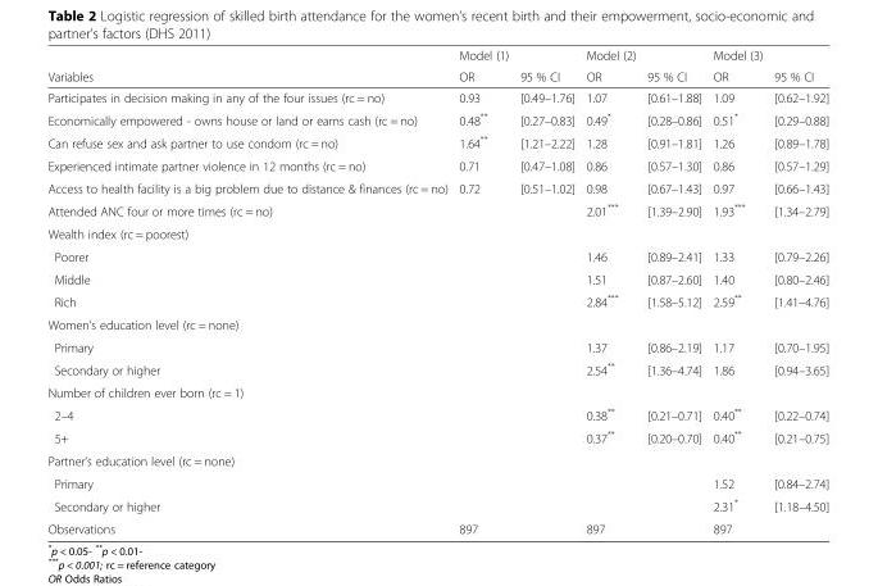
<table><thead><tr><td rowspan="2">Variables</td><td rowspan="2">Model (1) OR</td><td rowspan="2">95 % CI</td><td rowspan="2">Model (2) OR</td><td rowspan="2">95 % CI</td><td rowspan="2">Model (3) OR</td><td rowspan="2">95 % CI</td></tr><tr></tr></thead><tbody><tr><td>Participates in decision making in any of the four issues (rc = no)</td><td>0.93</td><td>[0.49–1.76]</td><td>1.07</td><td>[0.61–1.88]</td><td>1.09</td><td>[0.62–1.92]</td></tr><tr><td>Economically empowered - owns house or land or earns cash (rc = no)</td><td>0.48**</td><td>[0.27–0.83]</td><td>0.49*</td><td>[0.28–0.86]</td><td>0.51*</td><td>[0.29–0.88]</td></tr><tr><td>Can refuse sex and ask partner to use condom (rc = no)</td><td>1.64**</td><td>[1.21–2.22]</td><td>1.28</td><td>[0.91–1.81]</td><td>1.26</td><td>[0.89–1.78]</td></tr><tr><td>Experienced intimate partner violence in 12 months (rc = no)</td><td>0.71</td><td>[0.47–1.08]</td><td>0.86</td><td>[0.57–1.30]</td><td>0.86</td><td>[0.57–1.29]</td></tr><tr><td>Access to health facility is a big problem due to distance &amp; finances (rc = no)</td><td>0.72</td><td>[0.51–1.02]</td><td>0.98</td><td>[0.67–1.43]</td><td>0.97</td><td>[0.66–1.43]</td></tr><tr><td>Attended ANC four or more times (rc = no)</td><td></td><td></td><td>2.01***</td><td>[1.39–2.90]</td><td>1.93***</td><td>[1.34–2.79]</td></tr><tr><td colspan="7">Wealth index (rc = poorest)</td></tr><tr><td>Poorer</td><td></td><td></td><td>1.46</td><td>[0.89–2.41]</td><td>1.33</td><td>[0.79–2.26]</td></tr><tr><td>Middle</td><td></td><td></td><td>1.51</td><td>[0.87–2.60]</td><td>1.40</td><td>[0.80–2.46]</td></tr><tr><td>Rich</td><td></td><td></td><td>2.84***</td><td>[1.58–5.12]</td><td>2.59**</td><td>[1.41–4.76]</td></tr><tr><td colspan="7">Women’s education level (rc = none)</td></tr><tr><td>Primary</td><td></td><td></td><td>1.37</td><td>[0.86–2.19]</td><td>1.17</td><td>[0.70–1.95]</td></tr><tr><td>Secondary or higher</td><td></td><td></td><td>2.54**</td><td>[1.36–4.74]</td><td>1.86</td><td>[0.94–3.65]</td></tr><tr><td colspan="7">Number of children ever born (rc = 1)</td></tr><tr><td>2–4</td><td></td><td></td><td>0.38**</td><td>[0.21–0.71]</td><td>0.40**</td><td>[0.22–0.74]</td></tr><tr><td>5+</td><td></td><td></td><td>0.37**</td><td>[0.20–0.70]</td><td>0.40**</td><td>[0.21–0.75]</td></tr><tr><td colspan="7">Partner’s education level (rc = none)</td></tr><tr><td>Primary</td><td></td><td></td><td></td><td></td><td>1.52</td><td>[0.84–2.74]</td></tr><tr><td>Secondary or higher</td><td></td><td></td><td></td><td></td><td>2.31*</td><td>[1.18–4.50]</td></tr><tr><td>Observations</td><td>897</td><td></td><td>897</td><td></td><td>897</td><td></td></tr></tbody></table>